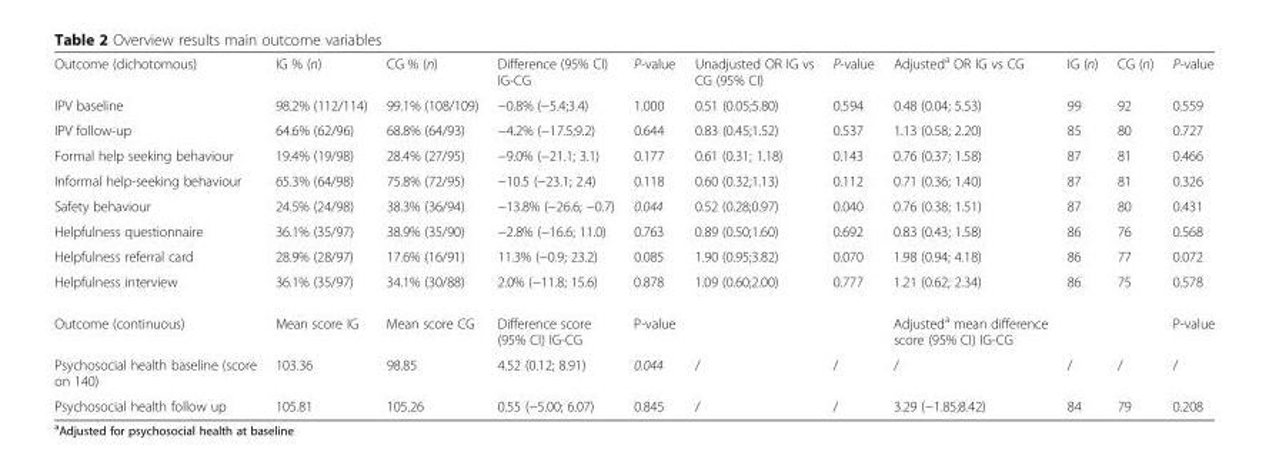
<table><tbody><tr><td>Outcome (dichotomous)</td><td>IG % (n)</td><td>CG % (n)</td><td>Difference (95% CI) IG-CG</td><td>P-value</td><td>Unadjusted OR IG vs CG (95% CI)</td><td>P-value</td><td>Adjusted<sup>a</sup> OR IG vs CG</td><td>IG (n)</td><td>CG (n)</td><td>P-value</td></tr><tr><td>IPV baseline</td><td>98.2% (112/114)</td><td>99.1% (108/109)</td><td>−0.8% (−5.4;3.4)</td><td>1.000</td><td>0.51 (0.05;5.80)</td><td>0.594</td><td>0.48 (0.04; 5.53)</td><td>99</td><td>92</td><td>0.559</td></tr><tr><td>IPV follow-up</td><td>64.6% (62/96)</td><td>68.8% (64/93)</td><td>−4.2% (−17.5;9.2)</td><td>0.644</td><td>0.83 (0.45;1.52)</td><td>0.537</td><td>1.13 (0.58; 2.20)</td><td>85</td><td>80</td><td>0.727</td></tr><tr><td>Formal help seeking behaviour</td><td>19.4% (19/98)</td><td>28.4% (27/95)</td><td>−9.0% (−21.1; 3.1)</td><td>0.177</td><td>0.61 (0.31; 1.18)</td><td>0.143</td><td>0.76 (0.37; 1.58)</td><td>87</td><td>81</td><td>0.466</td></tr><tr><td>Informal help-seeking behaviour</td><td>65.3% (64/98)</td><td>75.8% (72/95)</td><td>−10.5 (−23.1; 2.4)</td><td>0.118</td><td>0.60 (0.32;1.13)</td><td>0.112</td><td>0.71 (0.36; 1.40)</td><td>87</td><td>81</td><td>0.326</td></tr><tr><td>Safety behaviour</td><td>24.5% (24/98)</td><td>38.3% (36/94)</td><td>−13.8% (−26.6; −0.7)</td><td>0.044</td><td>0.52 (0.28;0.97)</td><td>0.040</td><td>0.76 (0.38; 1.51)</td><td>87</td><td>80</td><td>0.431</td></tr><tr><td>Helpfulness questionnaire</td><td>36.1% (35/97)</td><td>38.9% (35/90)</td><td>−2.8% (−16.6; 11.0)</td><td>0.763</td><td>0.89 (0.50;1.60)</td><td>0.692</td><td>0.83 (0.43; 1.58)</td><td>86</td><td>76</td><td>0.568</td></tr><tr><td>Helpfulness referral card</td><td>28.9% (28/97)</td><td>17.6% (16/91)</td><td>11.3% (−0.9; 23.2)</td><td>0.085</td><td>1.90 (0.95;3.82)</td><td>0.070</td><td>1.98 (0.94; 4.18)</td><td>86</td><td>77</td><td>0.072</td></tr><tr><td>Helpfulness interview</td><td>36.1% (35/97)</td><td>34.1% (30/88)</td><td>2.0% (−11.8; 15.6)</td><td>0.878</td><td>1.09 (0.60;2.00)</td><td>0.777</td><td>1.21 (0.62; 2.34)</td><td>86</td><td>75</td><td>0.578</td></tr><tr><td>Outcome (continuous)</td><td>Mean score IG</td><td>Mean score CG</td><td>Difference score (95% CI) IG-CG</td><td>P-value</td><td></td><td></td><td>Adjusted<sup>a</sup> mean difference score (95% CI) IG-CG</td><td></td><td></td><td>P-value</td></tr><tr><td>Psychosocial health baseline (score on 140)</td><td>103.36</td><td>98.85</td><td>4.52 (0.12; 8.91)</td><td>0.044</td><td>/</td><td>/</td><td>/</td><td>/</td><td>/</td><td>/</td></tr><tr><td>Psychosocial health follow up</td><td>105.81</td><td>105.26</td><td>0.55 (−5.00; 6.07)</td><td>0.845</td><td>/</td><td>/</td><td>3.29 (−1.85;8.42)</td><td>84</td><td>79</td><td>0.208</td></tr></tbody></table>